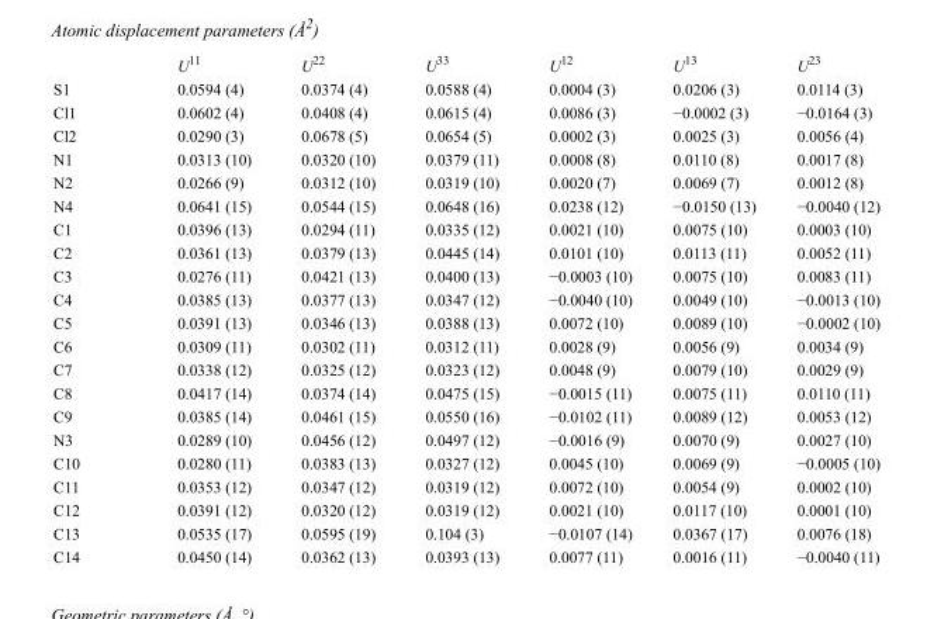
<table><thead><tr><td></td><td>U<sup>11</sup></td><td>U<sup>22</sup></td><td>U<sup>33</sup></td><td>U<sup>12</sup></td><td>U<sup>13</sup></td><td>U<sup>23</sup></td></tr></thead><tbody><tr><td>S1</td><td>0.0594 (4)</td><td>0.0374 (4)</td><td>0.0588 (4)</td><td>0.0004 (3)</td><td>0.0206 (3)</td><td>0.0114 (3)</td></tr><tr><td>Cl1</td><td>0.0602 (4)</td><td>0.0408 (4)</td><td>0.0615 (4)</td><td>0.0086 (3)</td><td>−0.0002 (3)</td><td>−0.0164 (3)</td></tr><tr><td>Cl2</td><td>0.0290 (3)</td><td>0.0678 (5)</td><td>0.0654 (5)</td><td>0.0002 (3)</td><td>0.0025 (3)</td><td>0.0056 (4)</td></tr><tr><td>N1</td><td>0.0313 (10)</td><td>0.0320 (10)</td><td>0.0379 (11)</td><td>0.0008 (8)</td><td>0.0110 (8)</td><td>0.0017 (8)</td></tr><tr><td>N2</td><td>0.0266 (9)</td><td>0.0312 (10)</td><td>0.0319 (10)</td><td>0.0020 (7)</td><td>0.0069 (7)</td><td>0.0012 (8)</td></tr><tr><td>N4</td><td>0.0641 (15)</td><td>0.0544 (15)</td><td>0.0648 (16)</td><td>0.0238 (12)</td><td>−0.0150 (13)</td><td>−0.0040 (12)</td></tr><tr><td>C1</td><td>0.0396 (13)</td><td>0.0294 (11)</td><td>0.0335 (12)</td><td>0.0021 (10)</td><td>0.0075 (10)</td><td>0.0003 (10)</td></tr><tr><td>C2</td><td>0.0361 (13)</td><td>0.0379 (13)</td><td>0.0445 (14)</td><td>0.0101 (10)</td><td>0.0113 (11)</td><td>0.0052 (11)</td></tr><tr><td>C3</td><td>0.0276 (11)</td><td>0.0421 (13)</td><td>0.0400 (13)</td><td>−0.0003 (10)</td><td>0.0075 (10)</td><td>0.0083 (11)</td></tr><tr><td>C4</td><td>0.0385 (13)</td><td>0.0377 (13)</td><td>0.0347 (12)</td><td>−0.0040 (10)</td><td>0.0049 (10)</td><td>−0.0013 (10)</td></tr><tr><td>C5</td><td>0.0391 (13)</td><td>0.0346 (13)</td><td>0.0388 (13)</td><td>0.0072 (10)</td><td>0.0089 (10)</td><td>−0.0002 (10)</td></tr><tr><td>C6</td><td>0.0309 (11)</td><td>0.0302 (11)</td><td>0.0312 (11)</td><td>0.0028 (9)</td><td>0.0056 (9)</td><td>0.0034 (9)</td></tr><tr><td>C7</td><td>0.0338 (12)</td><td>0.0325 (12)</td><td>0.0323 (12)</td><td>0.0048 (9)</td><td>0.0079 (10)</td><td>0.0029 (9)</td></tr><tr><td>C8</td><td>0.0417 (14)</td><td>0.0374 (14)</td><td>0.0475 (15)</td><td>−0.0015 (11)</td><td>0.0075 (11)</td><td>0.0110 (11)</td></tr><tr><td>C9</td><td>0.0385 (14)</td><td>0.0461 (15)</td><td>0.0550 (16)</td><td>−0.0102 (11)</td><td>0.0089 (12)</td><td>0.0053 (12)</td></tr><tr><td>N3</td><td>0.0289 (10)</td><td>0.0456 (12)</td><td>0.0497 (12)</td><td>−0.0016 (9)</td><td>0.0070 (9)</td><td>0.0027 (10)</td></tr><tr><td>C10</td><td>0.0280 (11)</td><td>0.0383 (13)</td><td>0.0327 (12)</td><td>0.0045 (10)</td><td>0.0069 (9)</td><td>−0.0005 (10)</td></tr><tr><td>C11</td><td>0.0353 (12)</td><td>0.0347 (12)</td><td>0.0319 (12)</td><td>0.0072 (10)</td><td>0.0054 (9)</td><td>0.0002 (10)</td></tr><tr><td>C12</td><td>0.0391 (12)</td><td>0.0320 (12)</td><td>0.0319 (12)</td><td>0.0021 (10)</td><td>0.0117 (10)</td><td>0.0001 (10)</td></tr><tr><td>C13</td><td>0.0535 (17)</td><td>0.0595 (19)</td><td>0.104 (3)</td><td>−0.0107 (14)</td><td>0.0367 (17)</td><td>0.0076 (18)</td></tr><tr><td>C14</td><td>0.0450 (14)</td><td>0.0362 (13)</td><td>0.0393 (13)</td><td>0.0077 (11)</td><td>0.0016 (11)</td><td>−0.0040 (11)</td></tr></tbody></table>